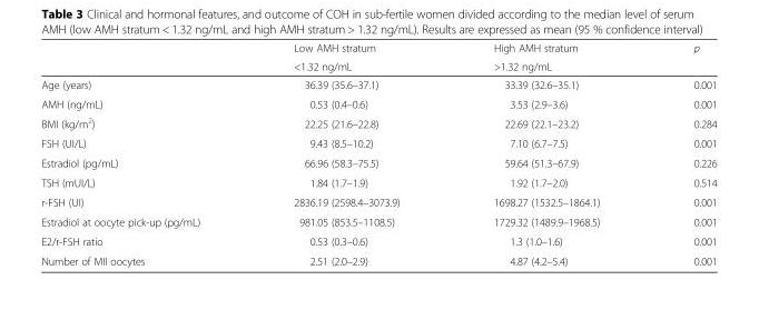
<table><thead><tr><td rowspan="2"></td><td rowspan="2">Low AMH stratum &lt;1.32 ng/mL</td><td rowspan="2">High AMH stratum &gt;1.32 ng/mL</td><td rowspan="2">p</td></tr><tr></tr></thead><tbody><tr><td>Age (years)</td><td>36.39 (35.6–37.1)</td><td>33.39 (32.6–35.1)</td><td>0.001</td></tr><tr><td>AMH (ng/mL)</td><td>0.53 (0.4–0.6)</td><td>3.53 (2.9–3.6)</td><td>0.001</td></tr><tr><td>BMI (kg/m<sup>2</sup>)</td><td>22.25 (21.6–22.8)</td><td>22.69 (22.1–23.2)</td><td>0.284</td></tr><tr><td>FSH (UI/L)</td><td>9.43 (8.5–10.2)</td><td>7.10 (6.7–7.5)</td><td>0.001</td></tr><tr><td>Estradiol (pg/mL)</td><td>66.96 (58.3–75.5)</td><td>59.64 (51.3–67.9)</td><td>0.226</td></tr><tr><td>TSH (mUI/L)</td><td>1.84 (1.7–1.9)</td><td>1.92 (1.7–2.0)</td><td>0.514</td></tr><tr><td>r-FSH (UI)</td><td>2836.19 (2598.4–3073.9)</td><td>1698.27 (1532.5–1864.1)</td><td>0.001</td></tr><tr><td>Estradiol at oocyte pick-up (pg/mL)</td><td>981.05 (853.5–1108.5)</td><td>1729.32 (1489.9–1968.5)</td><td>0.001</td></tr><tr><td>E2/r-FSH ratio</td><td>0.53 (0.3–0.6)</td><td>1.3 (1.0–1.6)</td><td>0.001</td></tr><tr><td>Number of MII oocytes</td><td>2.51 (2.0–2.9)</td><td>4.87 (4.2–5.4)</td><td>0.001</td></tr></tbody></table>